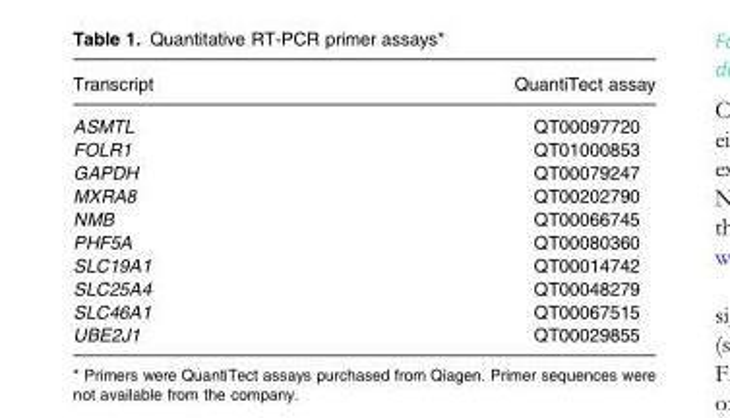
<table><thead><tr><td>Transcript</td><td>QuantiTect assay</td></tr></thead><tbody><tr><td>ASMTL</td><td>QT00097720</td></tr><tr><td>FOLR1</td><td>QT01000853</td></tr><tr><td>GAPDH</td><td>QT00079247</td></tr><tr><td>MXRA8</td><td>QT00202790</td></tr><tr><td>NMB</td><td>QT00066745</td></tr><tr><td>PHF5A</td><td>QT00080360</td></tr><tr><td>SLC19A1</td><td>QT00014742</td></tr><tr><td>SLC25A4</td><td>QT00048279</td></tr><tr><td>SLC46A1</td><td>QT00067515</td></tr><tr><td>UBE2J1</td><td>QT00029855</td></tr></tbody></table>